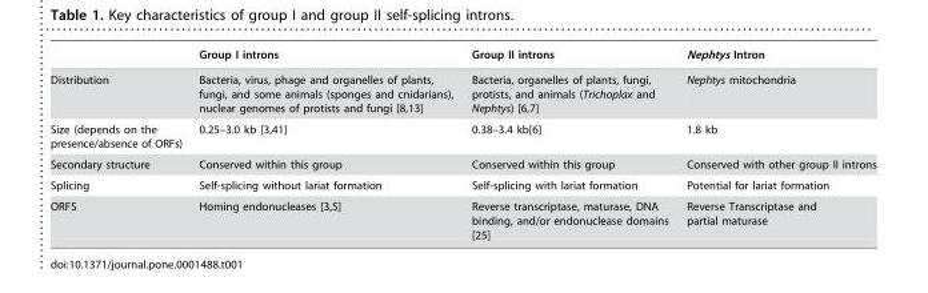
<table><thead><tr><td></td><td>Group I introns</td><td>Group II introns</td><td>Nephtys Intron</td></tr></thead><tbody><tr><td>Distribution</td><td>Bacteria, virus, phage and organelles of plants, fungi, and some animals (sponges and cnidarians), nuclear genomes of protists and fungi [8,13]</td><td>Bacteria, organelles of plants, fungi, protists, and animals (Trichoplax and Nephtys) [6,7]</td><td>Nephtys mitochondria</td></tr><tr><td>Size (depends on the presence/absence of ORFs)</td><td>0.25–3.0 kb [3,41]</td><td>0.38–3.4 kb[6]</td><td>1.8 kb</td></tr><tr><td>Secondary structure</td><td>Conserved within this group</td><td>Conserved within this group</td><td>Conserved with other group II introns</td></tr><tr><td>Splicing</td><td>Self-splicing without lariat formation</td><td>Self-splicing with lariat formation</td><td>Potential for lariat formation</td></tr><tr><td>ORFS</td><td>Homing endonucleases [3,5]</td><td>Reverse transcriptase, maturase, DNA binding, and/or endonuclease domains [25]</td><td>Reverse Transcriptase and partial maturase</td></tr></tbody></table>